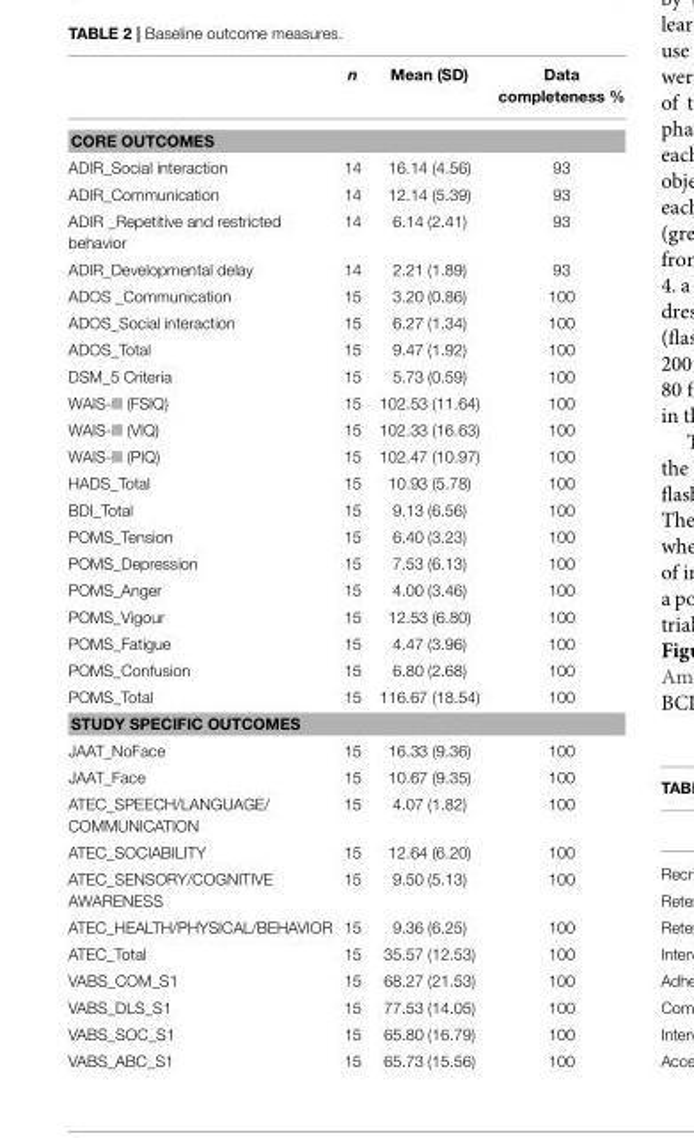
<table><thead><tr><td></td><td>n</td><td>Mean (SD)</td><td>Data completeness %</td></tr></thead><tbody><tr><td colspan="4">CORE OUTCOMES</td></tr><tr><td>ADIR_Social interaction</td><td>14</td><td>16.14 (4.56)</td><td>93</td></tr><tr><td>ADIR_Communication</td><td>14</td><td>12.14 (5.39)</td><td>93</td></tr><tr><td>ADIR _Repetitive and restricted behavior</td><td>14</td><td>6.14 (2.41)</td><td>93</td></tr><tr><td>ADIR_Developmental delay</td><td>14</td><td>2.21 (1.89)</td><td>93</td></tr><tr><td>ADOS _Communication</td><td>15</td><td>3.20 (0.86)</td><td>100</td></tr><tr><td>ADOS_Social interaction</td><td>15</td><td>6.27 (1.34)</td><td>100</td></tr><tr><td>ADOS_Total</td><td>15</td><td>9.47 (1.92)</td><td>100</td></tr><tr><td>DSM_5 Criteria</td><td>15</td><td>5.73 (0.59)</td><td>100</td></tr><tr><td>WAIS-III (FSIQ)</td><td>15</td><td>102.53 (11.64)</td><td>100</td></tr><tr><td>WAIS-III (VIQ)</td><td>15</td><td>102.33 (16.63)</td><td>100</td></tr><tr><td>WAIS-III (PIQ)</td><td>15</td><td>102.47 (10.97)</td><td>100</td></tr><tr><td>HADS_Total</td><td>15</td><td>10.93 (5.78)</td><td>100</td></tr><tr><td>BDI_Total</td><td>15</td><td>9.13 (6.56)</td><td>100</td></tr><tr><td>POMS_Tension</td><td>15</td><td>6.40 (3.23)</td><td>100</td></tr><tr><td>POMS_Depression</td><td>15</td><td>7.53 (6.13)</td><td>100</td></tr><tr><td>POMS_Anger</td><td>15</td><td>4.00 (3.46)</td><td>100</td></tr><tr><td>POMS_Vigour</td><td>15</td><td>12.53 (6.80)</td><td>100</td></tr><tr><td>POMS_Fatigue</td><td>15</td><td>4.47 (3.96)</td><td>100</td></tr><tr><td>POMS_Confusion</td><td>15</td><td>6.80 (2.68)</td><td>100</td></tr><tr><td>POMS_Total</td><td>15</td><td>116.67 (18.54)</td><td>100</td></tr><tr><td colspan="4">STUDY SPECIFIC OUTCOMES</td></tr><tr><td>JAAT_NoFace</td><td>15</td><td>16.33 (9.36)</td><td>100</td></tr><tr><td>JAAT_Face</td><td>15</td><td>10.67 (9.35)</td><td>100</td></tr><tr><td>ATEC_SPEECH/LANGUAGE/ COMMUNICATION</td><td>15</td><td>4.07 (1.82)</td><td>100</td></tr><tr><td>ATEC_SOCIABILITY</td><td>15</td><td>12.64 (6.20)</td><td>100</td></tr><tr><td>ATEC_SENSORY/COGNITIVE AWARENESS</td><td>15</td><td>9.50 (5.13)</td><td>100</td></tr><tr><td>ATEC_HEALTH/PHYSICAL/BEHAVIOR</td><td>15</td><td>9.36 (6.25)</td><td>100</td></tr><tr><td>ATEC_Total</td><td>15</td><td>35.57 (12.53)</td><td>100</td></tr><tr><td>VABS_COM_S1</td><td>15</td><td>68.27 (21.53)</td><td>100</td></tr><tr><td>VABS_DLS_S1</td><td>15</td><td>77.53 (14.05)</td><td>100</td></tr><tr><td>VABS_SOC_S1</td><td>15</td><td>65.80 (16.79)</td><td>100</td></tr><tr><td>VABS_ABC_S1</td><td>15</td><td>65.73 (15.56)</td><td>100</td></tr></tbody></table>